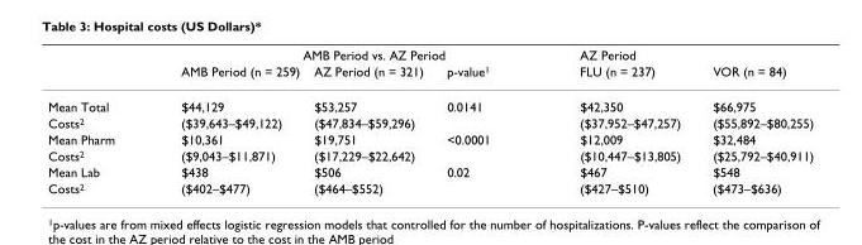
<table><thead><tr><td rowspan="2"></td><td colspan="3">AMB Period vs. AZ Period</td><td colspan="2">AZ Period</td></tr><tr><td>AMB Period (n = 259)</td><td>AZ Period (n = 321)</td><td>p-value<sup>1</sup></td><td>FLU (n = 237)</td><td>VOR (n = 84)</td></tr></thead><tbody><tr><td>Mean Total</td><td>$44,129</td><td>$53,257</td><td>0.0141</td><td>$42,350</td><td>$66,975</td></tr><tr><td>Costs<sup>2</sup></td><td>($39,643–$49,122)</td><td>($47,834–$59,296)</td><td></td><td>($37,952–$47,257)</td><td>($55,892–$80,255)</td></tr><tr><td>Mean Pharm</td><td>$10,361</td><td>$19,751</td><td>&lt;0.0001</td><td>$12,009</td><td>$32,484</td></tr><tr><td>Costs<sup>2</sup></td><td>($9,043–$11,871)</td><td>($17,229–$22,642)</td><td></td><td>($10,447–$13,805)</td><td>($25,792–$40,911)</td></tr><tr><td>Mean Lab</td><td>$438</td><td>$506</td><td>0.02</td><td>$467</td><td>$548</td></tr><tr><td>Costs<sup>2</sup></td><td>($402–$477)</td><td>($464–$552)</td><td></td><td>($427–$510)</td><td>($473–$636)</td></tr></tbody></table>